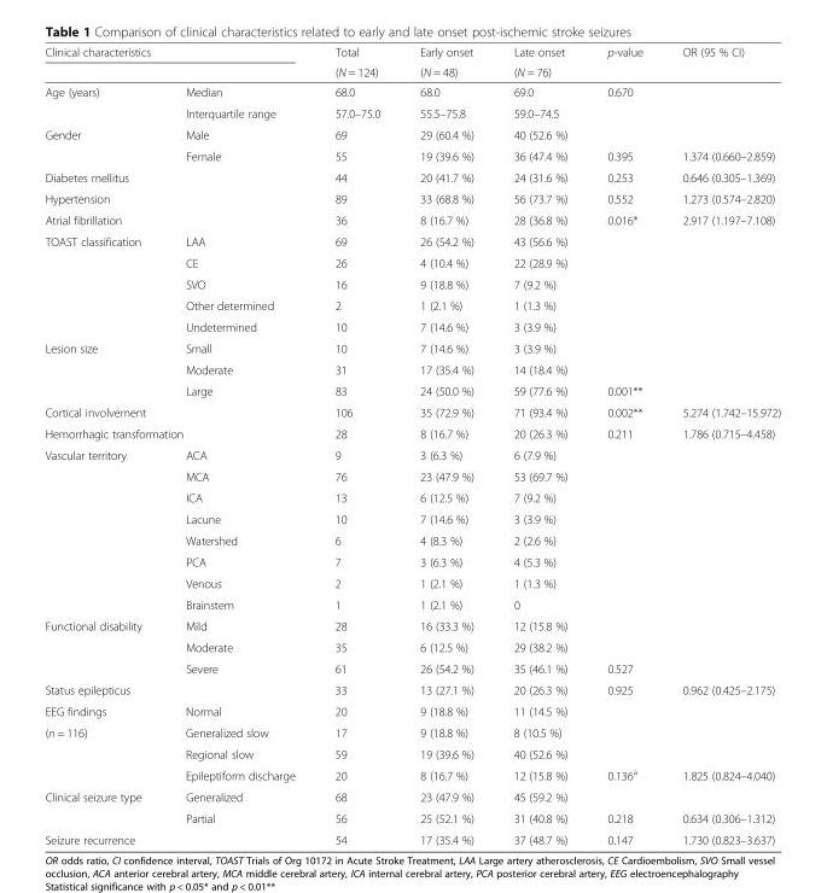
<table><thead><tr><td colspan="2">Clinical characteristics</td><td rowspan="2">Total (N = 124)</td><td rowspan="2">Early onset (N = 48)</td><td rowspan="2">Late onset (N = 76)</td><td rowspan="2">p-value</td><td rowspan="2">OR (95 % CI)</td></tr><tr><td></td><td></td></tr></thead><tbody><tr><td rowspan="2">Age (years)</td><td>Median</td><td>68.0</td><td>68.0</td><td>69.0</td><td>0.670</td><td></td></tr><tr><td>Interquartile range</td><td>57.0–75.0</td><td>55.5–75.8</td><td>59.0–74.5</td><td></td><td></td></tr><tr><td rowspan="2">Gender</td><td>Male</td><td>69</td><td>29 (60.4 %)</td><td>40 (52.6 %)</td><td></td><td></td></tr><tr><td>Female</td><td>55</td><td>19 (39.6 %)</td><td>36 (47.4 %)</td><td>0.395</td><td>1.374 (0.660–2.859)</td></tr><tr><td>Diabetes mellitus</td><td></td><td>44</td><td>20 (41.7 %)</td><td>24 (31.6 %)</td><td>0.253</td><td>0.646 (0.305–1.369)</td></tr><tr><td>Hypertension</td><td></td><td>89</td><td>33 (68.8 %)</td><td>56 (73.7 %)</td><td>0.552</td><td>1.273 (0.574–2.820)</td></tr><tr><td>Atrial fibrillation</td><td></td><td>36</td><td>8 (16.7 %)</td><td>28 (36.8 %)</td><td>0.016*</td><td>2.917 (1.197–7.108)</td></tr><tr><td rowspan="5">TOAST classification</td><td>LAA</td><td>69</td><td>26 (54.2 %)</td><td>43 (56.6 %)</td><td></td><td></td></tr><tr><td>CE</td><td>26</td><td>4 (10.4 %)</td><td>22 (28.9 %)</td><td></td><td></td></tr><tr><td>SVO</td><td>16</td><td>9 (18.8 %)</td><td>7 (9.2 %)</td><td></td><td></td></tr><tr><td>Other determined</td><td>2</td><td>1 (2.1 %)</td><td>1 (1.3 %)</td><td></td><td></td></tr><tr><td>Undetermined</td><td>10</td><td>7 (14.6 %)</td><td>3 (3.9 %)</td><td></td><td></td></tr><tr><td rowspan="3">Lesion size</td><td>Small</td><td>10</td><td>7 (14.6 %)</td><td>3 (3.9 %)</td><td></td><td></td></tr><tr><td>Moderate</td><td>31</td><td>17 (35.4 %)</td><td>14 (18.4 %)</td><td></td><td></td></tr><tr><td>Large</td><td>83</td><td>24 (50.0 %)</td><td>59 (77.6 %)</td><td>0.001**</td><td></td></tr><tr><td>Cortical involvement</td><td></td><td>106</td><td>35 (72.9 %)</td><td>71 (93.4 %)</td><td>0.002**</td><td>5.274 (1.742–15.972)</td></tr><tr><td colspan="2">Hemorrhagic transformation</td><td>28</td><td>8 (16.7 %)</td><td>20 (26.3 %)</td><td>0.211</td><td>1.786 (0.715–4.458)</td></tr><tr><td rowspan="8">Vascular territory</td><td>ACA</td><td>9</td><td>3 (6.3 %)</td><td>6 (7.9 %)</td><td></td><td></td></tr><tr><td>MCA</td><td>76</td><td>23 (47.9 %)</td><td>53 (69.7 %)</td><td></td><td></td></tr><tr><td>ICA</td><td>13</td><td>6 (12.5 %)</td><td>7 (9.2 %)</td><td></td><td></td></tr><tr><td>Lacune</td><td>10</td><td>7 (14.6 %)</td><td>3 (3.9 %)</td><td></td><td></td></tr><tr><td>Watershed</td><td>6</td><td>4 (8.3 %)</td><td>2 (2.6 %)</td><td></td><td></td></tr><tr><td>PCA</td><td>7</td><td>3 (6.3 %)</td><td>4 (5.3 %)</td><td></td><td></td></tr><tr><td>Venous</td><td>2</td><td>1 (2.1 %)</td><td>1 (1.3 %)</td><td></td><td></td></tr><tr><td>Brainstem</td><td>1</td><td>1 (2.1 %)</td><td>0</td><td></td><td></td></tr><tr><td rowspan="3">Functional disability</td><td>Mild</td><td>28</td><td>16 (33.3 %)</td><td>12 (15.8 %)</td><td></td><td></td></tr><tr><td>Moderate</td><td>35</td><td>6 (12.5 %)</td><td>29 (38.2 %)</td><td></td><td></td></tr><tr><td>Severe</td><td>61</td><td>26 (54.2 %)</td><td>35 (46.1 %)</td><td>0.527</td><td></td></tr><tr><td>Status epilepticus</td><td></td><td>33</td><td>13 (27.1 %)</td><td>20 (26.3 %)</td><td>0.925</td><td>0.962 (0.425–2.175)</td></tr><tr><td>EEG findings</td><td>Normal</td><td>20</td><td>9 (18.8 %)</td><td>11 (14.5 %)</td><td></td><td></td></tr><tr><td rowspan="3">(n = 116)</td><td>Generalized slow</td><td>17</td><td>9 (18.8 %)</td><td>8 (10.5 %)</td><td></td><td></td></tr><tr><td>Regional slow</td><td>59</td><td>19 (39.6 %)</td><td>40 (52.6 %)</td><td></td><td></td></tr><tr><td>Epileptiform discharge</td><td>20</td><td>8 (16.7 %)</td><td>12 (15.8 %)</td><td>0.136<sup>a</sup></td><td>1.825 (0.824–4.040)</td></tr><tr><td rowspan="2">Clinical seizure type</td><td>Generalized</td><td>68</td><td>23 (47.9 %)</td><td>45 (59.2 %)</td><td></td><td></td></tr><tr><td>Partial</td><td>56</td><td>25 (52.1 %)</td><td>31 (40.8 %)</td><td>0.218</td><td>0.634 (0.306–1.312)</td></tr><tr><td>Seizure recurrence</td><td></td><td>54</td><td>17 (35.4 %)</td><td>37 (48.7 %)</td><td>0.147</td><td>1.730 (0.823–3.637)</td></tr></tbody></table>